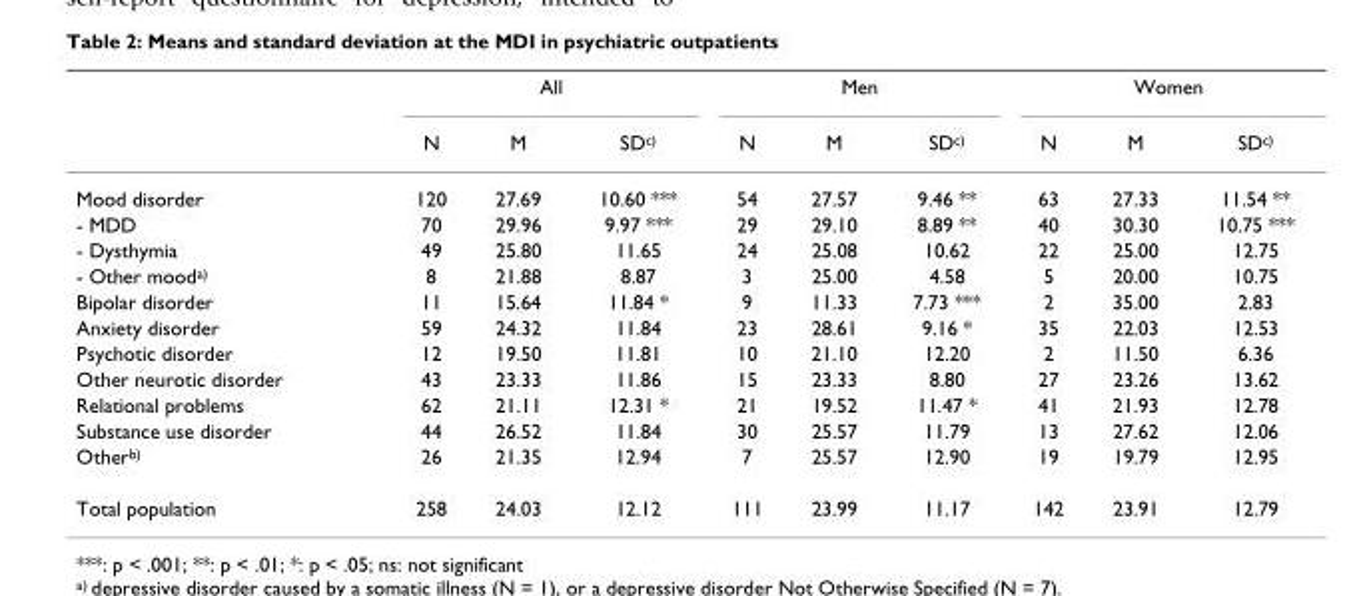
<table><thead><tr><td rowspan="2"></td><td colspan="3">All</td><td colspan="3">Men</td><td colspan="3">Women</td></tr><tr><td>N</td><td>M</td><td>SD<sup>c)</sup></td><td>N</td><td>M</td><td>SD<sup>c)</sup></td><td>N</td><td>M</td><td>SD<sup>c)</sup></td></tr></thead><tbody><tr><td>Mood disorder</td><td>120</td><td>27.69</td><td>10.60 ***</td><td>54</td><td>27.57</td><td>9.46 **</td><td>63</td><td>27.33</td><td>11.54 **</td></tr><tr><td>- MDD</td><td>70</td><td>29.96</td><td>9.97 ***</td><td>29</td><td>29.10</td><td>8.89 **</td><td>40</td><td>30.30</td><td>10.75 ***</td></tr><tr><td>- Dysthymia</td><td>49</td><td>25.80</td><td>11.65</td><td>24</td><td>25.08</td><td>10.62</td><td>22</td><td>25.00</td><td>12.75</td></tr><tr><td>- Other mood<sup>a)</sup></td><td>8</td><td>21.88</td><td>8.87</td><td>3</td><td>25.00</td><td>4.58</td><td>5</td><td>20.00</td><td>10.75</td></tr><tr><td>Bipolar disorder</td><td>11</td><td>15.64</td><td>11.84 *</td><td>9</td><td>11.33</td><td>7.73 ***</td><td>2</td><td>35.00</td><td>2.83</td></tr><tr><td>Anxiety disorder</td><td>59</td><td>24.32</td><td>11.84</td><td>23</td><td>28.61</td><td>9.16 *</td><td>35</td><td>22.03</td><td>12.53</td></tr><tr><td>Psychotic disorder</td><td>12</td><td>19.50</td><td>11.81</td><td>10</td><td>21.10</td><td>12.20</td><td>2</td><td>11.50</td><td>6.36</td></tr><tr><td>Other neurotic disorder</td><td>43</td><td>23.33</td><td>11.86</td><td>15</td><td>23.33</td><td>8.80</td><td>27</td><td>23.26</td><td>13.62</td></tr><tr><td>Relational problems</td><td>62</td><td>21.11</td><td>12.31 *</td><td>21</td><td>19.52</td><td>11.47 *</td><td>41</td><td>21.93</td><td>12.78</td></tr><tr><td>Substance use disorder</td><td>44</td><td>26.52</td><td>11.84</td><td>30</td><td>25.57</td><td>11.79</td><td>13</td><td>27.62</td><td>12.06</td></tr><tr><td>Other<sup>b)</sup></td><td>26</td><td>21.35</td><td>12.94</td><td>7</td><td>25.57</td><td>12.90</td><td>19</td><td>19.79</td><td>12.95</td></tr><tr><td>Total population</td><td>258</td><td>24.03</td><td>12.12</td><td>111</td><td>23.99</td><td>11.17</td><td>142</td><td>23.91</td><td>12.79</td></tr></tbody></table>